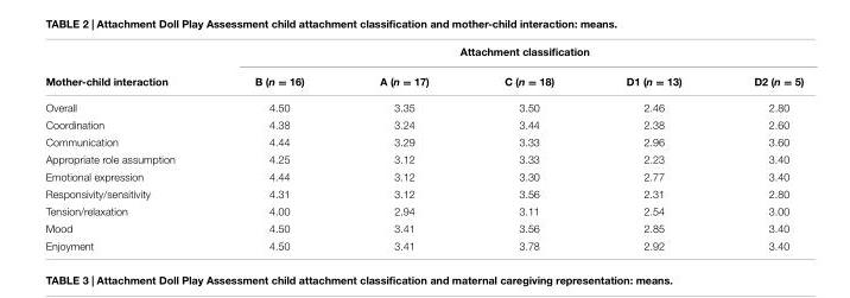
<table><thead><tr><td rowspan="2">Mother-child interaction</td><td colspan="5">Attachment classification</td></tr><tr><td>B (n = 16)</td><td>A (n = 17)</td><td>C (n = 18)</td><td>D1 (n = 13)</td><td>D2 (n = 5)</td></tr></thead><tbody><tr><td>Overall</td><td>4.50</td><td>3.35</td><td>3.50</td><td>2.46</td><td>2.80</td></tr><tr><td>Coordination</td><td>4.38</td><td>3.24</td><td>3.44</td><td>2.38</td><td>2.60</td></tr><tr><td>Communication</td><td>4.44</td><td>3.29</td><td>3.33</td><td>2.96</td><td>3.60</td></tr><tr><td>Appropriate role assumption</td><td>4.25</td><td>3.12</td><td>3.33</td><td>2.23</td><td>3.40</td></tr><tr><td>Emotional expression</td><td>4.44</td><td>3.12</td><td>3.30</td><td>2.77</td><td>3.40</td></tr><tr><td>Responsivity/sensitivity</td><td>4.31</td><td>3.12</td><td>3.56</td><td>2.31</td><td>2.80</td></tr><tr><td>Tension/relaxation</td><td>4.00</td><td>2.94</td><td>3.11</td><td>2.54</td><td>3.00</td></tr><tr><td>Mood</td><td>4.50</td><td>3.41</td><td>3.56</td><td>2.85</td><td>3.40</td></tr><tr><td>Enjoyment</td><td>4.50</td><td>3.41</td><td>3.78</td><td>2.92</td><td>3.40</td></tr></tbody></table>